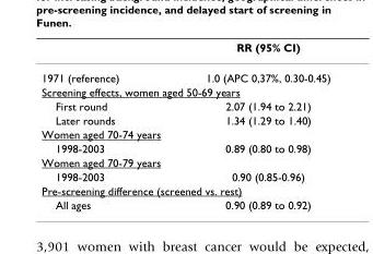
<table><thead><tr><td></td><td>RR (95% CI)</td></tr></thead><tbody><tr><td>1971 (reference)</td><td>1.0 (APC 0,37%, 0.30-0.45)</td></tr><tr><td colspan="2">Screening effects, women aged 50-69 years</td></tr><tr><td>First round</td><td>2.07 (1.94 to 2.21)</td></tr><tr><td>Later rounds</td><td>1.34 (1.29 to 1.40)</td></tr><tr><td colspan="2">Women aged 70-74 years</td></tr><tr><td>1998-2003</td><td>0.89 (0.80 to 0.98)</td></tr><tr><td colspan="2">Women aged 70-79 years</td></tr><tr><td>1998-2003</td><td>0.90 (0.85-0.96)</td></tr><tr><td colspan="2">Pre-screening difference (screened vs. rest)</td></tr><tr><td>All ages</td><td>0.90 (0.89 to 0.92)</td></tr></tbody></table>